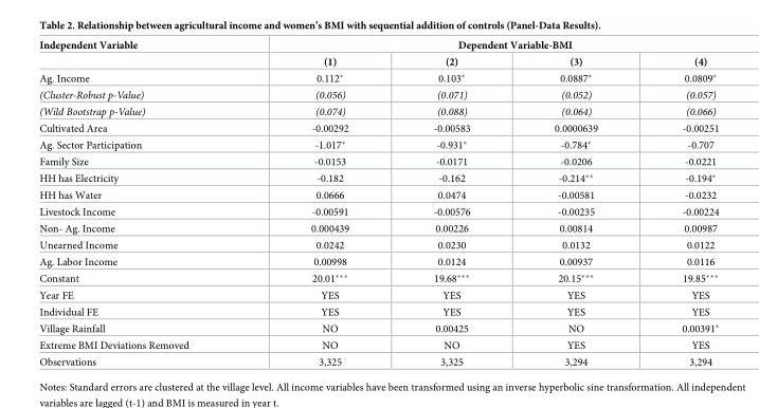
<table><thead><tr><td rowspan="2">Independent Variable</td><td colspan="4">Dependent Variable-BMI</td></tr><tr><td>(1)</td><td>(2)</td><td>(3)</td><td>(4)</td></tr></thead><tbody><tr><td>Ag. Income</td><td>0.112*</td><td>0.103*</td><td>0.0887*</td><td>0.0809*</td></tr><tr><td>(Cluster-Robust p-Value)</td><td>(0.056)</td><td>(0.071)</td><td>(0.052)</td><td>(0.057)</td></tr><tr><td>(Wild Bootstrap p-Value)</td><td>(0.074)</td><td>(0.088)</td><td>(0.064)</td><td>(0.066)</td></tr><tr><td>Cultivated Area</td><td>-0.00292</td><td>-0.00583</td><td>0.0000639</td><td>-0.00251</td></tr><tr><td>Ag. Sector Participation</td><td>-1.017*</td><td>-0.931*</td><td>-0.784*</td><td>-0.707</td></tr><tr><td>Family Size</td><td>-0.0153</td><td>-0.0171</td><td>-0.0206</td><td>-0.0221</td></tr><tr><td>HH has Electricity</td><td>-0.182</td><td>-0.162</td><td>-0.214**</td><td>-0.194*</td></tr><tr><td>HH has Water</td><td>0.0666</td><td>0.0474</td><td>-0.00581</td><td>-0.0232</td></tr><tr><td>Livestock Income</td><td>-0.00591</td><td>-0.00576</td><td>-0.00235</td><td>-0.00224</td></tr><tr><td>Non- Ag. Income</td><td>0.000439</td><td>0.00226</td><td>0.00814</td><td>0.00987</td></tr><tr><td>Unearned Income</td><td>0.0242</td><td>0.0230</td><td>0.0132</td><td>0.0122</td></tr><tr><td>Ag. Labor Income</td><td>0.00998</td><td>0.0124</td><td>0.00937</td><td>0.0116</td></tr><tr><td>Constant</td><td>20.01***</td><td>19.68***</td><td>20.15***</td><td>19.85***</td></tr><tr><td>Year FE</td><td>YES</td><td>YES</td><td>YES</td><td>YES</td></tr><tr><td>Individual FE</td><td>YES</td><td>YES</td><td>YES</td><td>YES</td></tr><tr><td>Village Rainfall</td><td>NO</td><td>0.00425</td><td>NO</td><td>0.00391*</td></tr><tr><td>Extreme BMI Deviations Removed</td><td>NO</td><td>NO</td><td>YES</td><td>YES</td></tr><tr><td>Observations</td><td>3,325</td><td>3,325</td><td>3,294</td><td>3,294</td></tr></tbody></table>